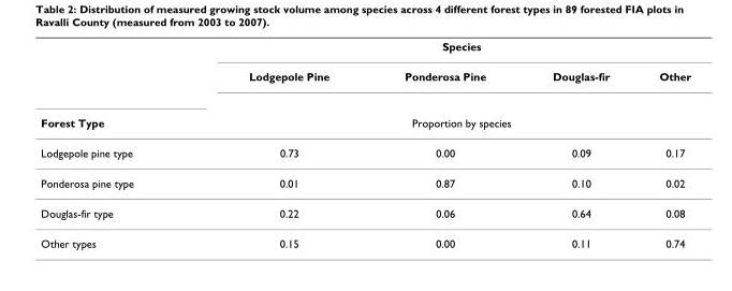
<table><thead><tr><td rowspan="3">Forest Type</td><td colspan="4">Species</td></tr><tr><td>Lodgepole Pine</td><td>Ponderosa Pine</td><td>Douglas-fir</td><td>Other</td></tr><tr><td colspan="4">Proportion by species</td></tr></thead><tbody><tr><td>Lodgepole pine type</td><td>0.73</td><td>0.00</td><td>0.09</td><td>0.17</td></tr><tr><td>Ponderosa pine type</td><td>0.01</td><td>0.87</td><td>0.10</td><td>0.02</td></tr><tr><td>Douglas-fir type</td><td>0.22</td><td>0.06</td><td>0.64</td><td>0.08</td></tr><tr><td>Other types</td><td>0.15</td><td>0.00</td><td>0.11</td><td>0.74</td></tr></tbody></table>